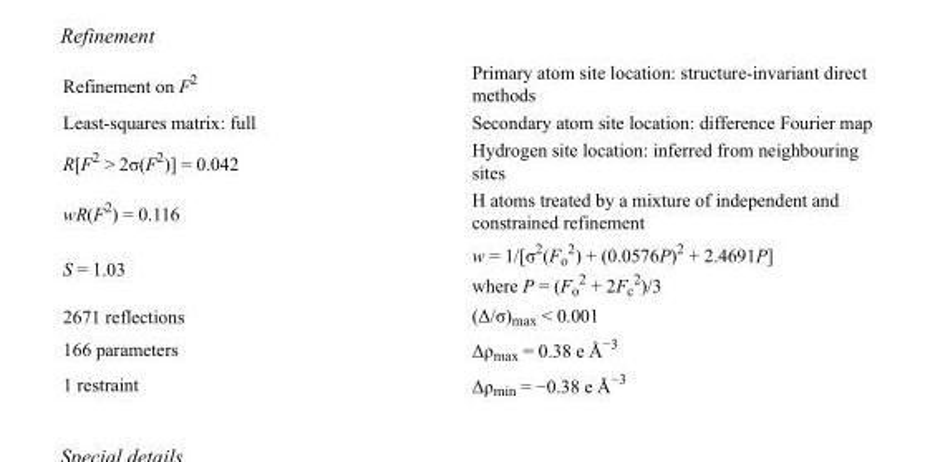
<table><tbody><tr><td>Refinement on F<sup>2</sup></td><td>Primary atom site location: structure-invariant direct methods</td></tr><tr><td>Least-squares matrix: full</td><td>Secondary atom site location: difference Fourier map</td></tr><tr><td>R[F<sup>2</sup> &gt; 2σ(F<sup>2</sup>)] = 0.042</td><td>Hydrogen site location: inferred from neighbouring sites</td></tr><tr><td>wR(F<sup>2</sup>) = 0.116</td><td>H atoms treated by a mixture of independent and constrained refinement</td></tr><tr><td>S = 1.03</td><td>w = 1/[σ<sup>2</sup>(F<sub>o</sub> <sup>2</sup>) + (0.0576P)<sup>2</sup> + 2.4691P] where P = (F<sub>o</sub> <sup>2</sup> + 2F<sub>c</sub> <sup>2</sup>)/3</td></tr><tr><td>2671 reflections</td><td>(Δ/σ)<sub>max</sub> &lt; 0.001</td></tr><tr><td>166 parameters</td><td>Δρ<sub>max</sub> = 0.38 e Å<sup>−3</sup></td></tr><tr><td>1 restraint</td><td>Δρ<sub>min</sub> = −0.38 e Å<sup>−3</sup></td></tr></tbody></table>